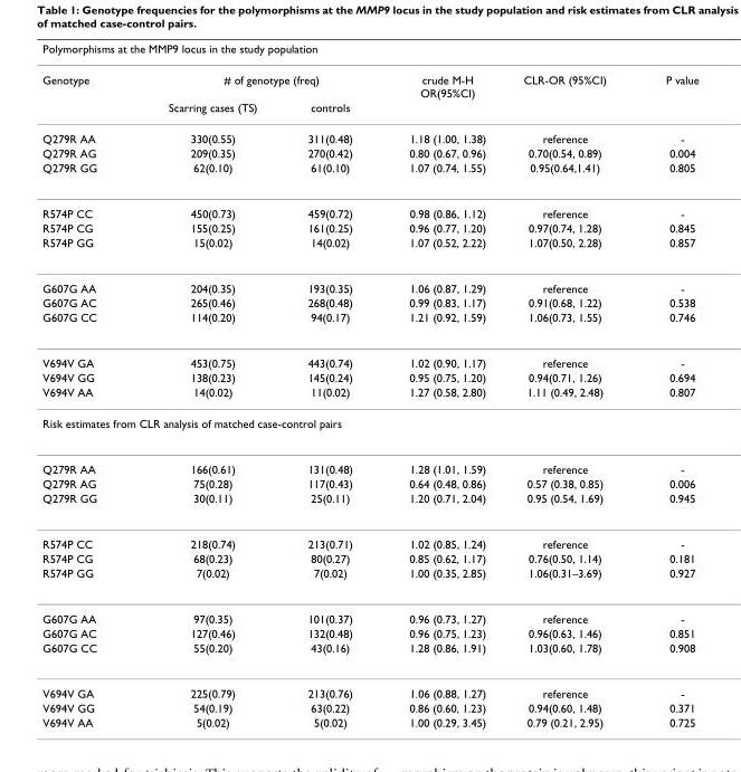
<table><thead><tr><td colspan="6">Polymorphisms at the MMP9 locus in the study population</td></tr><tr><td rowspan="2">Genotype</td><td colspan="2"># of genotype (freq)</td><td rowspan="2">crude M-H OR(95%CI)</td><td rowspan="2">CLR-OR (95%CI)</td><td rowspan="2">P value</td></tr><tr><td>Scarring cases (TS)</td><td>controls</td></tr></thead><tbody><tr><td>Q279R AA</td><td>330(0.55)</td><td>311(0.48)</td><td>1.18 (1.00, 1.38)</td><td>reference</td><td>-</td></tr><tr><td>Q279R AG</td><td>209(0.35)</td><td>270(0.42)</td><td>0.80 (0.67, 0.96)</td><td>0.70(0.54, 0.89)</td><td>0.004</td></tr><tr><td>Q279R GG</td><td>62(0.10)</td><td>61(0.10)</td><td>1.07 (0.74, 1.55)</td><td>0.95(0.64,1.41)</td><td>0.805</td></tr><tr><td>R574P CC</td><td>450(0.73)</td><td>459(0.72)</td><td>0.98 (0.86, 1.12)</td><td>reference</td><td>-</td></tr><tr><td>R574P CG</td><td>155(0.25)</td><td>161(0.25)</td><td>0.96 (0.77, 1.20)</td><td>0.97(0.74, 1.28)</td><td>0.845</td></tr><tr><td>R574P GG</td><td>15(0.02)</td><td>14(0.02)</td><td>1.07 (0.52, 2.22)</td><td>1.07(0.50, 2.28)</td><td>0.857</td></tr><tr><td>G607G AA</td><td>204(0.35)</td><td>193(0.35)</td><td>1.06 (0.87, 1.29)</td><td>reference</td><td>-</td></tr><tr><td>G607G AC</td><td>265(0.46)</td><td>268(0.48)</td><td>0.99 (0.83, 1.17)</td><td>0.91(0.68, 1.22)</td><td>0.538</td></tr><tr><td>G607G CC</td><td>114(0.20)</td><td>94(0.17)</td><td>1.21 (0.92, 1.59)</td><td>1.06(0.73, 1.55)</td><td>0.746</td></tr><tr><td>V694V GA</td><td>453(0.75)</td><td>443(0.74)</td><td>1.02 (0.90, 1.17)</td><td>reference</td><td>-</td></tr><tr><td>V694V GG</td><td>138(0.23)</td><td>145(0.24)</td><td>0.95 (0.75, 1.20)</td><td>0.94(0.71, 1.26)</td><td>0.694</td></tr><tr><td>V694V AA</td><td>14(0.02)</td><td>11(0.02)</td><td>1.27 (0.58, 2.80)</td><td>1.11 (0.49, 2.48)</td><td>0.807</td></tr><tr><td colspan="6">Risk estimates from CLR analysis of matched case-control pairs</td></tr><tr><td>Q279R AA</td><td>166(0.61)</td><td>131(0.48)</td><td>1.28 (1.01, 1.59)</td><td>reference</td><td>-</td></tr><tr><td>Q279R AG</td><td>75(0.28)</td><td>117(0.43)</td><td>0.64 (0.48, 0.86)</td><td>0.57 (0.38, 0.85)</td><td>0.006</td></tr><tr><td>Q279R GG</td><td>30(0.11)</td><td>25(0.11)</td><td>1.20 (0.71, 2.04)</td><td>0.95 (0.54, 1.69)</td><td>0.945</td></tr><tr><td>R574P CC</td><td>218(0.74)</td><td>213(0.71)</td><td>1.02 (0.85, 1.24)</td><td>reference</td><td>-</td></tr><tr><td>R574P CG</td><td>68(0.23)</td><td>80(0.27)</td><td>0.85 (0.62, 1.17)</td><td>0.76(0.50, 1.14)</td><td>0.181</td></tr><tr><td>R574P GG</td><td>7(0.02)</td><td>7(0.02)</td><td>1.00 (0.35, 2.85)</td><td>1.06(0.31–3.69)</td><td>0.927</td></tr><tr><td>G607G AA</td><td>97(0.35)</td><td>101(0.37)</td><td>0.96 (0.73, 1.27)</td><td>reference</td><td>-</td></tr><tr><td>G607G AC</td><td>127(0.46)</td><td>132(0.48)</td><td>0.96 (0.75, 1.23)</td><td>0.96(0.63, 1.46)</td><td>0.851</td></tr><tr><td>G607G CC</td><td>55(0.20)</td><td>43(0.16)</td><td>1.28 (0.86, 1.91)</td><td>1.03(0.60, 1.78)</td><td>0.908</td></tr><tr><td>V694V GA</td><td>225(0.79)</td><td>213(0.76)</td><td>1.06 (0.88, 1.27)</td><td>reference</td><td>-</td></tr><tr><td>V694V GG</td><td>54(0.19)</td><td>63(0.22)</td><td>0.86 (0.60, 1.23)</td><td>0.94(0.60, 1.48)</td><td>0.371</td></tr><tr><td>V694V AA</td><td>5(0.02)</td><td>5(0.02)</td><td>1.00 (0.29, 3.45)</td><td>0.79 (0.21, 2.95)</td><td>0.725</td></tr></tbody></table>